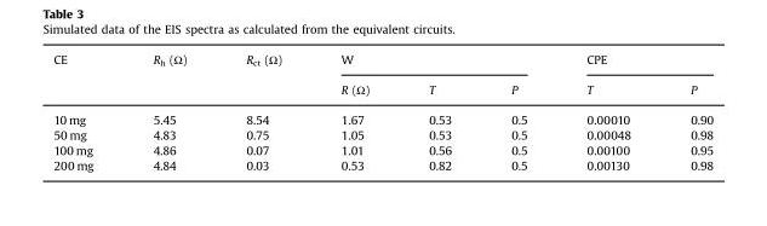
<table><thead><tr><td rowspan="2">CE</td><td rowspan="2">R<sub>h</sub> (Ω)</td><td rowspan="2">R<sub>ct</sub> (Ω)</td><td colspan="3">W</td><td colspan="2">CPE</td></tr><tr><td>R (Ω)</td><td>T</td><td>P</td><td>T</td><td>P</td></tr></thead><tbody><tr><td>10 mg</td><td>5.45</td><td>8.54</td><td>1.67</td><td>0.53</td><td>0.5</td><td>0.00010</td><td>0.90</td></tr><tr><td>50 mg</td><td>4.83</td><td>0.75</td><td>1.05</td><td>0.53</td><td>0.5</td><td>0.00048</td><td>0.98</td></tr><tr><td>100 mg</td><td>4.86</td><td>0.07</td><td>1.01</td><td>0.56</td><td>0.5</td><td>0.00100</td><td>0.95</td></tr><tr><td>200 mg</td><td>4.84</td><td>0.03</td><td>0.53</td><td>0.82</td><td>0.5</td><td>0.00130</td><td>0.98</td></tr></tbody></table>